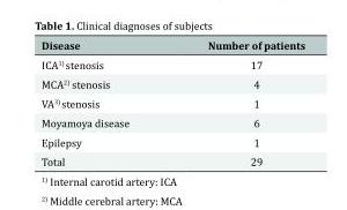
<table><thead><tr><td>Disease</td><td>Number of patients</td></tr></thead><tbody><tr><td>ICA<sup>1)</sup> stenosis</td><td>17</td></tr><tr><td>MCA<sup>2)</sup> stenosis</td><td>4</td></tr><tr><td>VA<sup>3)</sup> stenosis</td><td>1</td></tr><tr><td>Moyamoya disease</td><td>6</td></tr><tr><td>Epilepsy</td><td>1</td></tr><tr><td>Total</td><td>29</td></tr></tbody></table>